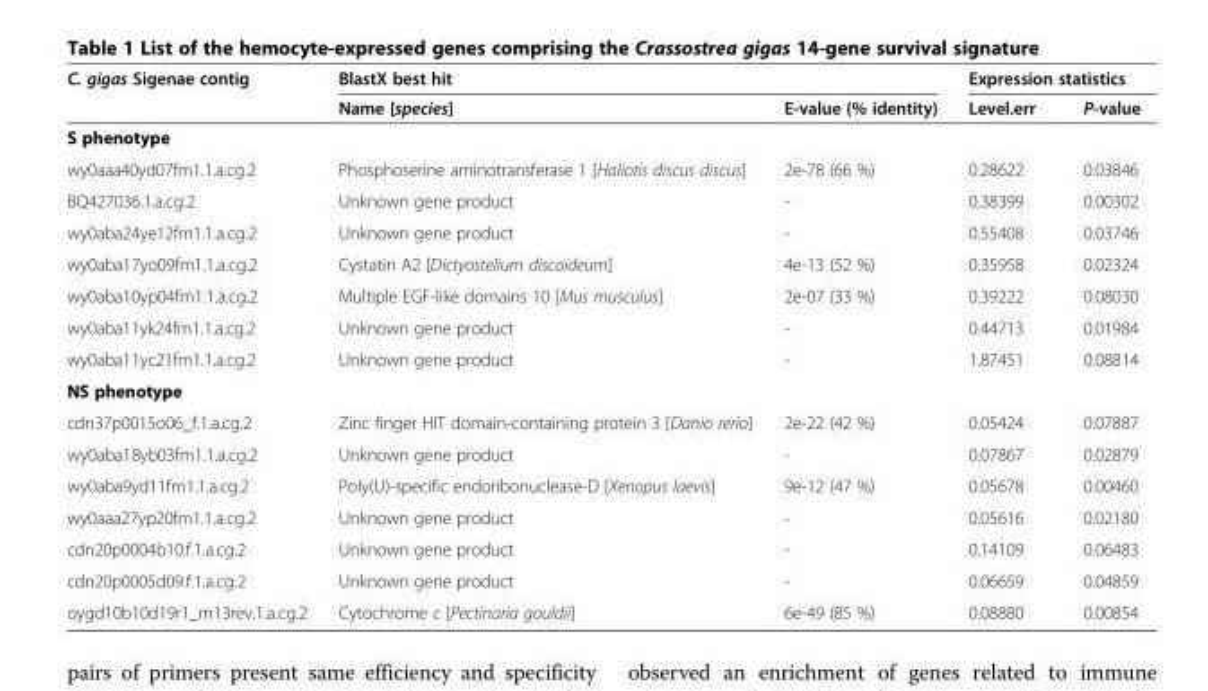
<table><thead><tr><td rowspan="2">C. gigas Sigenae contig</td><td colspan="2">BlastX best hit</td><td colspan="2">Expression statistics</td></tr><tr><td>Name [species]</td><td>E-value (% identity)</td><td>Level.err</td><td>P-value</td></tr></thead><tbody><tr><td colspan="5">S phenotype</td></tr><tr><td>wy0aaa40yd07fm1.1.a.cg.2</td><td>Phosphoserine aminotransferase 1 [Haliotis discus discus]</td><td>2e-78 (66 %)</td><td>0.28622</td><td>0.03846</td></tr><tr><td>BQ427036.1.a.cg.2</td><td>Unknown gene product</td><td>-</td><td>0.38399</td><td>0.00302</td></tr><tr><td>wy0aba24ye12fm1.1.a.cg.2</td><td>Unknown gene product</td><td>-</td><td>0.55408</td><td>0.03746</td></tr><tr><td>wy0aba17yo09fm1.1.a.cg.2</td><td>Cystatin A2 [Dictyostelium discoideum]</td><td>4e-13 (52 %)</td><td>0.35958</td><td>0.02324</td></tr><tr><td>wy0aba10yp04fm1.1.a.cg.2</td><td>Multiple EGF-like domains 10 [Mus musculus]</td><td>2e-07 (33 %)</td><td>0.39222</td><td>0.08030</td></tr><tr><td>wy0aba11yk24fm1.1.a.cg.2</td><td>Unknown gene product</td><td>-</td><td>0.44713</td><td>0.01984</td></tr><tr><td>wy0aba11yc21fm1.1.a.cg.2</td><td>Unknown gene product</td><td>-</td><td>1.87451</td><td>0.08814</td></tr><tr><td colspan="5">NS phenotype</td></tr><tr><td>cdn37p0015o06_f.1.a.cg.2</td><td>Zinc finger HIT domain-containing protein 3 [Danio rerio]</td><td>2e-22 (42 %)</td><td>0.05424</td><td>0.07887</td></tr><tr><td>wy0aba18yb03fm1.1.a.cg.2</td><td>Unknown gene product</td><td>-</td><td>0.07867</td><td>0.02879</td></tr><tr><td>wy0aba9yd11fm1.1.a.cg.2</td><td>Poly(U)-specific endoribonuclease-D [Xenopus laevis]</td><td>9e-12 (47 %)</td><td>0.05678</td><td>0.00460</td></tr><tr><td>wy0aaa27yp20fm1.1.a.cg.2</td><td>Unknown gene product</td><td>-</td><td>0.05616</td><td>0.02180</td></tr><tr><td>cdn20p0004b10.f.1.a.cg.2</td><td>Unknown gene product</td><td>-</td><td>0.14109</td><td>0.06483</td></tr><tr><td>cdn20p0005d09.f.1.a.cg.2</td><td>Unknown gene product</td><td>-</td><td>0.06659</td><td>0.04859</td></tr><tr><td>oygd10b10d19r1_m13rev.1.a.cg.2</td><td>Cytochrome c [Pectinaria gouldii]</td><td>6e-49 (85 %)</td><td>0.08880</td><td>0.00854</td></tr></tbody></table>